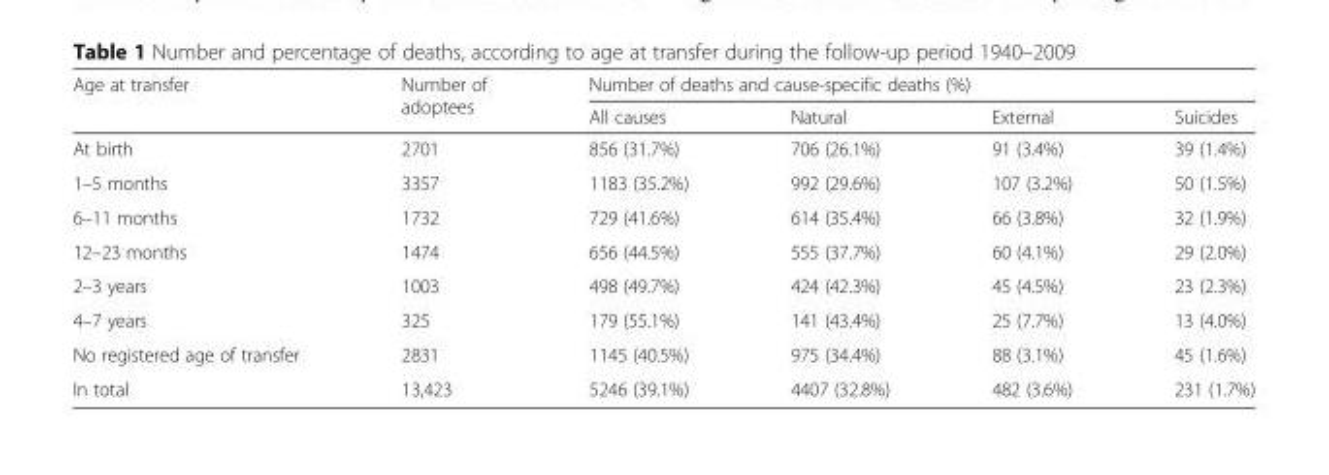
<table><thead><tr><td rowspan="2">Age at transfer</td><td rowspan="2">Number of adoptees</td><td colspan="4">Number of deaths and cause-specific deaths (%)</td></tr><tr><td>All causes</td><td>Natural</td><td>External</td><td>Suicides</td></tr></thead><tbody><tr><td>At birth</td><td>2701</td><td>856 (31.7%)</td><td>706 (26.1%)</td><td>91 (3.4%)</td><td>39 (1.4%)</td></tr><tr><td>1–5 months</td><td>3357</td><td>1183 (35.2%)</td><td>992 (29.6%)</td><td>107 (3.2%)</td><td>50 (1.5%)</td></tr><tr><td>6–11 months</td><td>1732</td><td>729 (41.6%)</td><td>614 (35.4%)</td><td>66 (3.8%)</td><td>32 (1.9%)</td></tr><tr><td>12–23 months</td><td>1474</td><td>656 (44.5%)</td><td>555 (37.7%)</td><td>60 (4.1%)</td><td>29 (2.0%)</td></tr><tr><td>2–3 years</td><td>1003</td><td>498 (49.7%)</td><td>424 (42.3%)</td><td>45 (4.5%)</td><td>23 (2.3%)</td></tr><tr><td>4–7 years</td><td>325</td><td>179 (55.1%)</td><td>141 (43.4%)</td><td>25 (7.7%)</td><td>13 (4.0%)</td></tr><tr><td>No registered age of transfer</td><td>2831</td><td>1145 (40.5%)</td><td>975 (34.4%)</td><td>88 (3.1%)</td><td>45 (1.6%)</td></tr><tr><td>In total</td><td>13,423</td><td>5246 (39.1%)</td><td>4407 (32.8%)</td><td>482 (3.6%)</td><td>231 (1.7%)</td></tr></tbody></table>